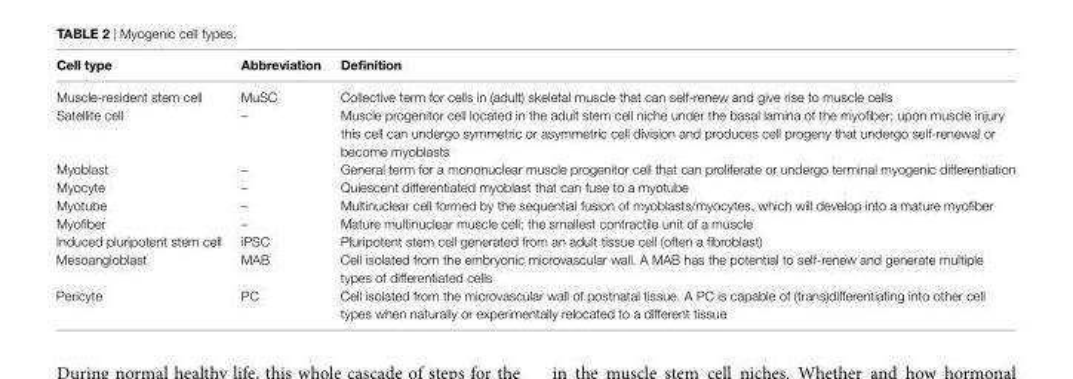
<table><thead><tr><td>Cell type</td><td>Abbreviation</td><td>Definition</td></tr></thead><tbody><tr><td>Muscle-resident stem cell</td><td>MuSC</td><td>Collective term for cells in (adult) skeletal muscle that can self-renew and give rise to muscle cells</td></tr><tr><td>Satellite cell</td><td>–</td><td>Muscle progenitor cell located in the adult stem cell niche under the basal lamina of the myofiber; upon muscle injury this cell can undergo symmetric or asymmetric cell division and produces cell progeny that undergo self-renewal or become myoblasts</td></tr><tr><td>Myoblast</td><td>–</td><td>General term for a mononuclear muscle progenitor cell that can proliferate or undergo terminal myogenic differentiation</td></tr><tr><td>Myocyte</td><td>–</td><td>Quiescent differentiated myoblast that can fuse to a myotube</td></tr><tr><td>Myotube</td><td>–</td><td>Multinuclear cell formed by the sequential fusion of myoblasts/myocytes, which will develop into a mature myofiber</td></tr><tr><td>Myofiber</td><td>–</td><td>Mature multinuclear muscle cell; the smallest contractile unit of a muscle</td></tr><tr><td>Induced pluripotent stem cell</td><td>iPSC</td><td>Pluripotent stem cell generated from an adult tissue cell (often a fibroblast)</td></tr><tr><td>Mesoangioblast</td><td>MAB</td><td>Cell isolated from the embryonic microvascular wall. A MAB has the potential to self-renew and generate multiple types of differentiated cells</td></tr><tr><td>Pericyte</td><td>PC</td><td>Cell isolated from the microvascular wall of postnatal tissue. A PC is capable of (trans)differentiating into other cell types when naturally or experimentally relocated to a different tissue</td></tr></tbody></table>